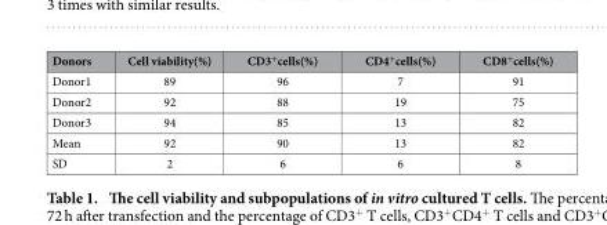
<table><thead><tr><td>Donors</td><td>Cell viability(%)</td><td>CD3<sup>+</sup>cells(%)</td><td>CD4<sup>+</sup>cells(%)</td><td>CD8<sup>+</sup>cells(%)</td></tr></thead><tbody><tr><td>Donor1</td><td>89</td><td>96</td><td>7</td><td>91</td></tr><tr><td>Donor2</td><td>92</td><td>88</td><td>19</td><td>75</td></tr><tr><td>Donor3</td><td>94</td><td>85</td><td>13</td><td>82</td></tr><tr><td>Mean</td><td>92</td><td>90</td><td>13</td><td>82</td></tr><tr><td>SD</td><td>2</td><td>6</td><td>6</td><td>8</td></tr></tbody></table>